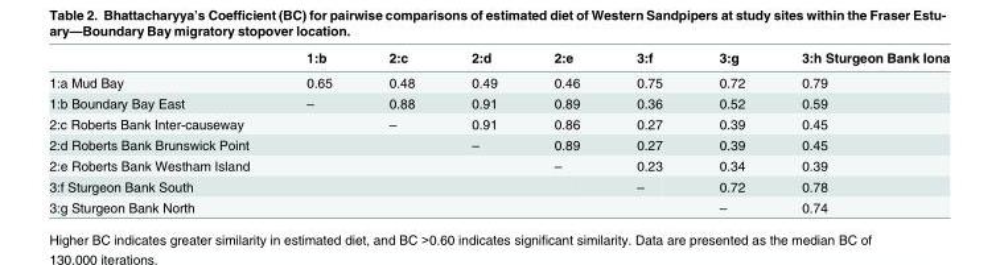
<table><thead><tr><td></td><td>1:b</td><td>2:c</td><td>2:d</td><td>2:e</td><td>3:f</td><td>3:g</td><td>3:h Sturgeon Bank Iona</td></tr></thead><tbody><tr><td>1:a Mud Bay</td><td>0.65</td><td>0.48</td><td>0.49</td><td>0.46</td><td>0.75</td><td>0.72</td><td>0.79</td></tr><tr><td>1:b Boundary Bay East</td><td>–</td><td>0.88</td><td>0.91</td><td>0.89</td><td>0.36</td><td>0.52</td><td>0.59</td></tr><tr><td>2:c Roberts Bank Inter-causeway</td><td></td><td>–</td><td>0.91</td><td>0.86</td><td>0.27</td><td>0.39</td><td>0.45</td></tr><tr><td>2:d Roberts Bank Brunswick Point</td><td></td><td></td><td>–</td><td>0.89</td><td>0.27</td><td>0.39</td><td>0.45</td></tr><tr><td>2:e Roberts Bank Westham Island</td><td></td><td></td><td></td><td>–</td><td>0.23</td><td>0.34</td><td>0.39</td></tr><tr><td>3:f Sturgeon Bank South</td><td></td><td></td><td></td><td></td><td>–</td><td>0.72</td><td>0.78</td></tr><tr><td>3:g Sturgeon Bank North</td><td></td><td></td><td></td><td></td><td></td><td>–</td><td>0.74</td></tr></tbody></table>